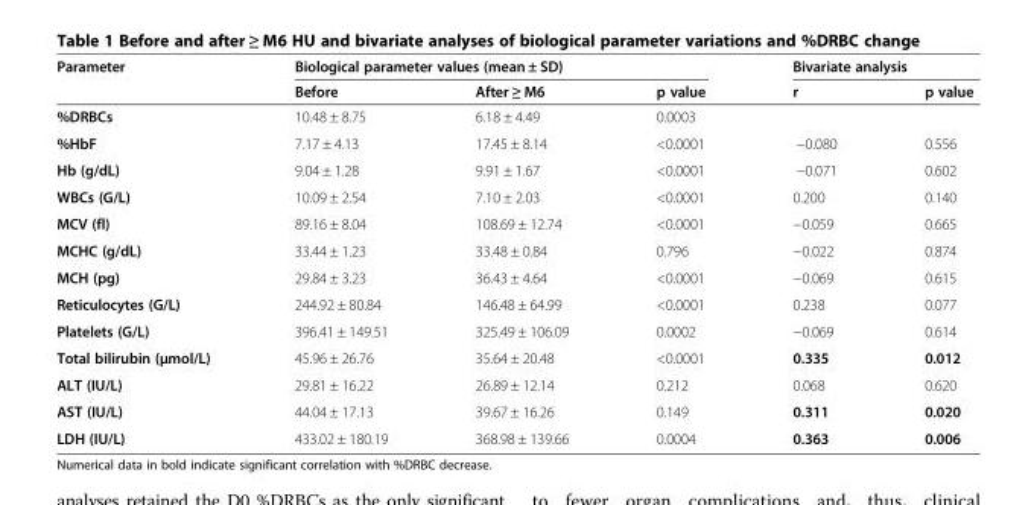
<table><thead><tr><td rowspan="2">Parameter</td><td colspan="3">Biological parameter values (mean ± SD)</td><td colspan="2">Bivariate analysis</td></tr><tr><td>Before</td><td>After ≥ M6</td><td>p value</td><td>r</td><td>p value</td></tr></thead><tbody><tr><td>%DRBCs</td><td>10.48 ± 8.75</td><td>6.18 ± 4.49</td><td>0.0003</td><td></td><td></td></tr><tr><td>%HbF</td><td>7.17 ± 4.13</td><td>17.45 ± 8.14</td><td>&lt;0.0001</td><td>−0.080</td><td>0.556</td></tr><tr><td>Hb (g/dL)</td><td>9.04 ± 1.28</td><td>9.91 ± 1.67</td><td>&lt;0.0001</td><td>−0.071</td><td>0.602</td></tr><tr><td>WBCs (G/L)</td><td>10.09 ± 2.54</td><td>7.10 ± 2.03</td><td>&lt;0.0001</td><td>0.200</td><td>0.140</td></tr><tr><td>MCV (fl)</td><td>89.16 ± 8.04</td><td>108.69 ± 12.74</td><td>&lt;0.0001</td><td>−0.059</td><td>0.665</td></tr><tr><td>MCHC (g/dL)</td><td>33.44 ± 1.23</td><td>33.48 ± 0.84</td><td>0.796</td><td>−0.022</td><td>0.874</td></tr><tr><td>MCH (pg)</td><td>29.84 ± 3.23</td><td>36.43 ± 4.64</td><td>&lt;0.0001</td><td>−0.069</td><td>0.615</td></tr><tr><td>Reticulocytes (G/L)</td><td>244.92 ± 80.84</td><td>146.48 ± 64.99</td><td>&lt;0.0001</td><td>0.238</td><td>0.077</td></tr><tr><td>Platelets (G/L)</td><td>396.41 ± 149.51</td><td>325.49 ± 106.09</td><td>0.0002</td><td>−0.069</td><td>0.614</td></tr><tr><td>Total bilirubin (μmol/L)</td><td>45.96 ± 26.76</td><td>35.64 ± 20.48</td><td>&lt;0.0001</td><td>0.335</td><td>0.012</td></tr><tr><td>ALT (IU/L)</td><td>29.81 ± 16.22</td><td>26.89 ± 12.14</td><td>0.212</td><td>0.068</td><td>0.620</td></tr><tr><td>AST (IU/L)</td><td>44.04 ± 17.13</td><td>39.67 ± 16.26</td><td>0.149</td><td>0.311</td><td>0.020</td></tr><tr><td>LDH (IU/L)</td><td>433.02 ± 180.19</td><td>368.98 ± 139.66</td><td>0.0004</td><td>0.363</td><td>0.006</td></tr></tbody></table>